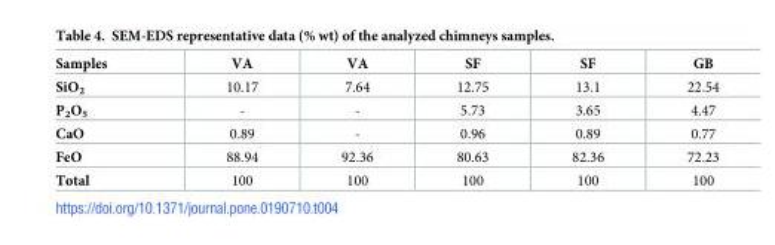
<table><thead><tr><td>Samples</td><td>VA</td><td>VA</td><td>SF</td><td>SF</td><td>GB</td></tr></thead><tbody><tr><td>SiO<sub>2</sub></td><td>10.17</td><td>7.64</td><td>12.75</td><td>13.1</td><td>22.54</td></tr><tr><td>P<sub>2</sub>O<sub>5</sub></td><td>-</td><td>-</td><td>5.73</td><td>3.65</td><td>4.47</td></tr><tr><td>CaO</td><td>0.89</td><td>-</td><td>0.96</td><td>0.89</td><td>0.77</td></tr><tr><td>FeO</td><td>88.94</td><td>92.36</td><td>80.63</td><td>82.36</td><td>72.23</td></tr><tr><td>Total</td><td>100</td><td>100</td><td>100</td><td>100</td><td>100</td></tr></tbody></table>